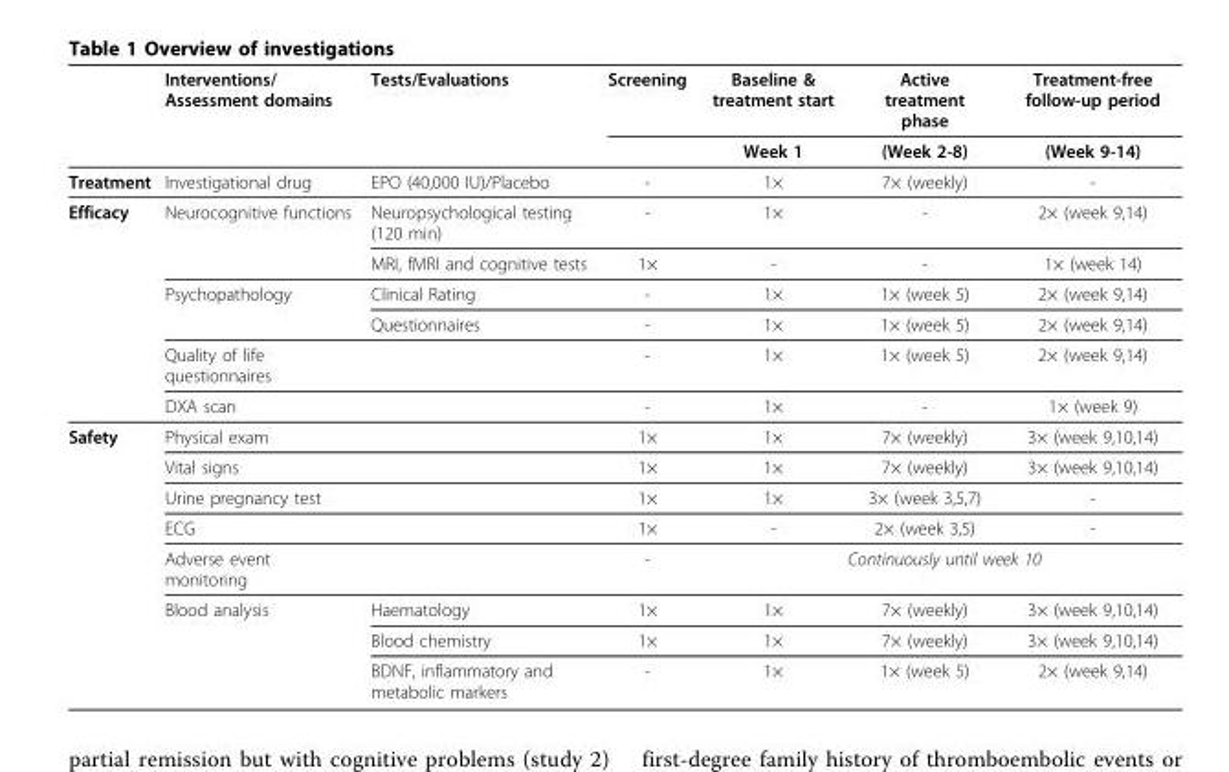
<table><thead><tr><td rowspan="2"></td><td rowspan="2">Interventions/ Assessment domains</td><td rowspan="2">Tests/Evaluations</td><td rowspan="2">Screening</td><td rowspan="2">Baseline &amp; treatment start Week 1</td><td rowspan="2">Active treatment phase (Week 2-8)</td><td rowspan="2">Treatment-free follow-up period (Week 9-14)</td></tr><tr></tr></thead><tbody><tr><td>Treatment</td><td>Investigational drug</td><td>EPO (40,000 IU)/Placebo</td><td>-</td><td>1×</td><td>7× (weekly)</td><td>-</td></tr><tr><td rowspan="6">Efficacy</td><td>Neurocognitive functions</td><td>Neuropsychological testing (120 min)</td><td>-</td><td>1×</td><td>-</td><td>2× (week 9,14)</td></tr><tr><td></td><td>MRI, fMRI and cognitive tests</td><td>1×</td><td>-</td><td>-</td><td>1× (week 14)</td></tr><tr><td>Psychopathology</td><td>Clinical Rating</td><td>-</td><td>1×</td><td>1× (week 5)</td><td>2× (week 9,14)</td></tr><tr><td></td><td>Questionnaires</td><td>-</td><td>1×</td><td>1× (week 5)</td><td>2× (week 9,14)</td></tr><tr><td>Quality of life questionnaires</td><td></td><td>-</td><td>1×</td><td>1× (week 5)</td><td>2× (week 9,14)</td></tr><tr><td>DXA scan</td><td></td><td>-</td><td>1×</td><td>-</td><td>1× (week 9)</td></tr><tr><td rowspan="8">Safety</td><td>Physical exam</td><td></td><td>1×</td><td>1×</td><td>7× (weekly)</td><td>3× (week 9,10,14)</td></tr><tr><td>Vital signs</td><td></td><td>1×</td><td>1×</td><td>7× (weekly)</td><td>3× (week 9,10,14)</td></tr><tr><td>Urine pregnancy test</td><td></td><td>1×</td><td>1×</td><td>3× (week 3,5,7)</td><td>-</td></tr><tr><td>ECG</td><td></td><td>1×</td><td>-</td><td>2× (week 3,5)</td><td>-</td></tr><tr><td>Adverse event monitoring</td><td></td><td>-</td><td colspan="3">Continuously until week 10</td></tr><tr><td>Blood analysis</td><td>Haematology</td><td>1×</td><td>1×</td><td>7× (weekly)</td><td>3× (week 9,10,14)</td></tr><tr><td></td><td>Blood chemistry</td><td>1×</td><td>1×</td><td>7× (weekly)</td><td>3× (week 9,10,14)</td></tr><tr><td></td><td>BDNF, inflammatory and metabolic markers</td><td>-</td><td>1×</td><td>1× (week 5)</td><td>2× (week 9,14)</td></tr></tbody></table>